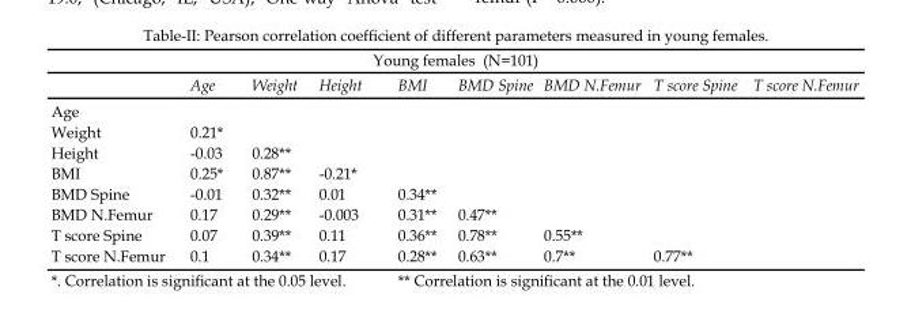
<table><thead><tr><td colspan="9">Young females (N=101)</td></tr><tr><td></td><td>Age</td><td>Weight</td><td>Height</td><td>BMI</td><td>BMD Spine</td><td>BMD N.Femur</td><td>T score Spine</td><td>T score N.Femur</td></tr></thead><tbody><tr><td colspan="9">Age</td></tr><tr><td>Weight</td><td>0.21*</td><td></td><td></td><td></td><td></td><td></td><td></td><td></td></tr><tr><td>Height</td><td>-0.03</td><td>0.28**</td><td></td><td></td><td></td><td></td><td></td><td></td></tr><tr><td>BMI</td><td>0.25*</td><td>0.87**</td><td>-0.21*</td><td></td><td></td><td></td><td></td><td></td></tr><tr><td>BMD Spine</td><td>-0.01</td><td>0.32**</td><td>0.01</td><td>0.34**</td><td></td><td></td><td></td><td></td></tr><tr><td>BMD N.Femur</td><td>0.17</td><td>0.29**</td><td>-0.003</td><td>0.31**</td><td>0.47**</td><td></td><td></td><td></td></tr><tr><td>T score Spine</td><td>0.07</td><td>0.39**</td><td>0.11</td><td>0.36**</td><td>0.78**</td><td>0.55**</td><td></td><td></td></tr><tr><td>T score N.Femur</td><td>0.1</td><td>0.34**</td><td>0.17</td><td>0.28**</td><td>0.63**</td><td>0.7**</td><td>0.77**</td><td></td></tr></tbody></table>